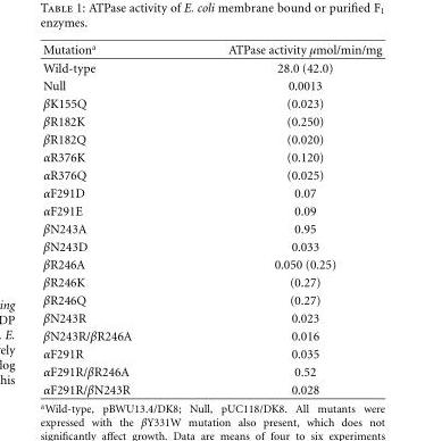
<table><thead><tr><td>Mutation<sup>a</sup></td><td>ATPase activity μmol/min/mg</td></tr></thead><tbody><tr><td>Wild-type</td><td>28.0 (42.0)</td></tr><tr><td>Null</td><td>0.0013</td></tr><tr><td>βK155Q</td><td>(0.023)</td></tr><tr><td>βR182K</td><td>(0.250)</td></tr><tr><td>βR182Q</td><td>(0.020)</td></tr><tr><td>αR376K</td><td>(0.120)</td></tr><tr><td>αR376Q</td><td>(0.025)</td></tr><tr><td>αF291D</td><td>0.07</td></tr><tr><td>αF291E</td><td>0.09</td></tr><tr><td>βN243A</td><td>0.95</td></tr><tr><td>βN243D</td><td>0.033</td></tr><tr><td>βR246A</td><td>0.050 (0.25)</td></tr><tr><td>βR246K</td><td>(0.27)</td></tr><tr><td>βR246Q</td><td>(0.27)</td></tr><tr><td>βN243R</td><td>0.023</td></tr><tr><td>βN243R/βR246A</td><td>0.016</td></tr><tr><td>αF291R</td><td>0.035</td></tr><tr><td>αF291R/βR246A</td><td>0.52</td></tr><tr><td>αF291R/βN243R</td><td>0.028</td></tr></tbody></table>